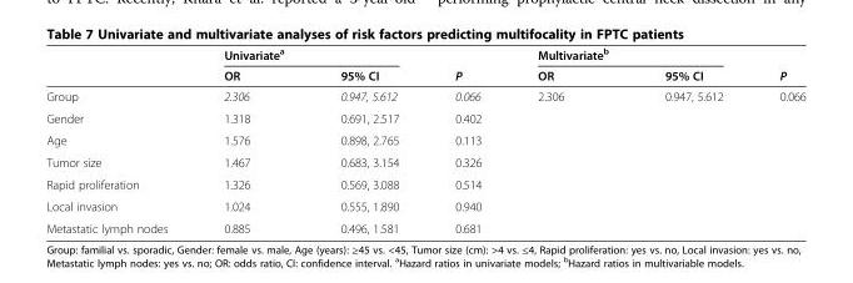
<table><thead><tr><td rowspan="2"></td><td rowspan="2">Univariate<sup>a</sup> OR</td><td rowspan="2">95% CI</td><td rowspan="2">P</td><td rowspan="2">Multivariate<sup>b</sup> OR</td><td rowspan="2">95% CI</td><td rowspan="2">P</td></tr><tr></tr></thead><tbody><tr><td>Group</td><td>2.306</td><td>0.947, 5.612</td><td>0.066</td><td>2.306</td><td>0.947, 5.612</td><td>0.066</td></tr><tr><td>Gender</td><td>1.318</td><td>0.691, 2.517</td><td>0.402</td><td></td><td></td><td></td></tr><tr><td>Age</td><td>1.576</td><td>0.898, 2.765</td><td>0.113</td><td></td><td></td><td></td></tr><tr><td>Tumor size</td><td>1.467</td><td>0.683, 3.154</td><td>0.326</td><td></td><td></td><td></td></tr><tr><td>Rapid proliferation</td><td>1.326</td><td>0.569, 3.088</td><td>0.514</td><td></td><td></td><td></td></tr><tr><td>Local invasion</td><td>1.024</td><td>0.555, 1.890</td><td>0.940</td><td></td><td></td><td></td></tr><tr><td>Metastatic lymph nodes</td><td>0.885</td><td>0.496, 1.581</td><td>0.681</td><td></td><td></td><td></td></tr></tbody></table>